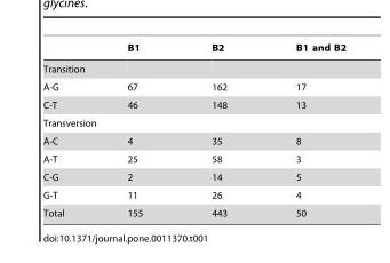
<table><thead><tr><td></td><td>B1</td><td>B2</td><td>B1 and B2</td></tr></thead><tbody><tr><td colspan="4">Transition</td></tr><tr><td>A-G</td><td>67</td><td>162</td><td>17</td></tr><tr><td>C-T</td><td>46</td><td>148</td><td>13</td></tr><tr><td colspan="4">Transversion</td></tr><tr><td>A-C</td><td>4</td><td>35</td><td>8</td></tr><tr><td>A-T</td><td>25</td><td>58</td><td>3</td></tr><tr><td>C-G</td><td>2</td><td>14</td><td>5</td></tr><tr><td>G-T</td><td>11</td><td>26</td><td>4</td></tr><tr><td>Total</td><td>155</td><td>443</td><td>50</td></tr></tbody></table>